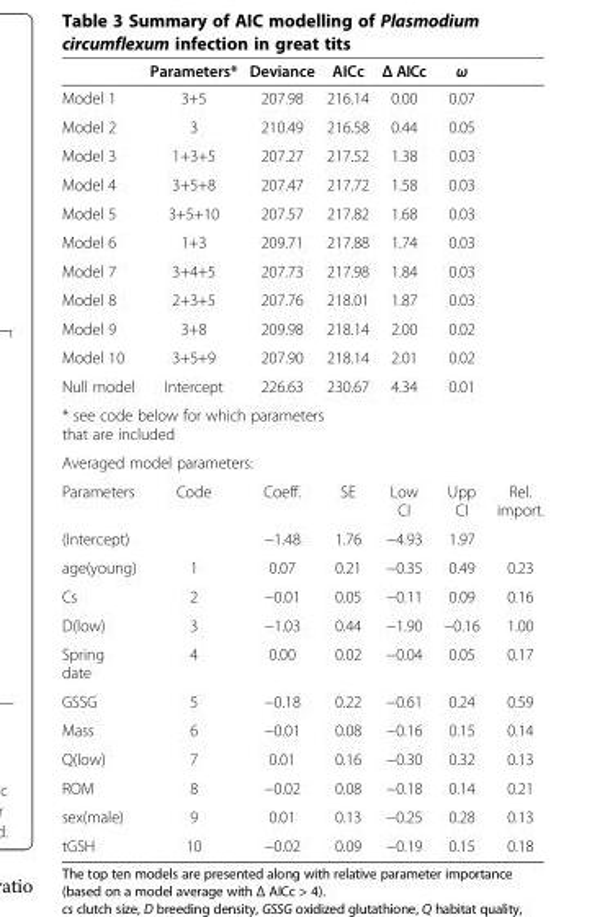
<table><thead><tr><td></td><td>Parameters*</td><td>Deviance</td><td>AICc</td><td>Δ AICc</td><td>ω</td><td></td></tr></thead><tbody><tr><td>Model 1</td><td>3+5</td><td>207.98</td><td>216.14</td><td>0.00</td><td>0.07</td><td></td></tr><tr><td>Model 2</td><td>3</td><td>210.49</td><td>216.58</td><td>0.44</td><td>0.05</td><td></td></tr><tr><td>Model 3</td><td>1+3+5</td><td>207.27</td><td>217.52</td><td>1.38</td><td>0.03</td><td></td></tr><tr><td>Model 4</td><td>3+5+8</td><td>207.47</td><td>217.72</td><td>1.58</td><td>0.03</td><td></td></tr><tr><td>Model 5</td><td>3+5+10</td><td>207.57</td><td>217.82</td><td>1.68</td><td>0.03</td><td></td></tr><tr><td>Model 6</td><td>1+3</td><td>209.71</td><td>217.88</td><td>1.74</td><td>0.03</td><td></td></tr><tr><td>Model 7</td><td>3+4+5</td><td>207.73</td><td>217.98</td><td>1.84</td><td>0.03</td><td></td></tr><tr><td>Model 8</td><td>2+3+5</td><td>207.76</td><td>218.01</td><td>1.87</td><td>0.03</td><td></td></tr><tr><td>Model 9</td><td>3+8</td><td>209.98</td><td>218.14</td><td>2.00</td><td>0.02</td><td></td></tr><tr><td>Model 10</td><td>3+5+9</td><td>207.90</td><td>218.14</td><td>2.01</td><td>0.02</td><td></td></tr><tr><td>Null model</td><td>Intercept</td><td>226.63</td><td>230.67</td><td>4.34</td><td>0.01</td><td></td></tr><tr><td colspan="7">* see code below for which parameters that are included</td></tr><tr><td colspan="7">Averaged model parameters:</td></tr><tr><td>Parameters</td><td>Code</td><td>Coeff.</td><td>SE</td><td>Low CI</td><td>Upp CI</td><td>Rel. import.</td></tr><tr><td>(Intercept)</td><td></td><td>−1.48</td><td>1.76</td><td>−4.93</td><td>1.97</td><td></td></tr><tr><td>age(young)</td><td>1</td><td>0.07</td><td>0.21</td><td>−0.35</td><td>0.49</td><td>0.23</td></tr><tr><td>Cs</td><td>2</td><td>−0.01</td><td>0.05</td><td>−0.11</td><td>0.09</td><td>0.16</td></tr><tr><td>D(low)</td><td>3</td><td>−1.03</td><td>0.44</td><td>−1.90</td><td>−0.16</td><td>1.00</td></tr><tr><td>Spring date</td><td>4</td><td>0.00</td><td>0.02</td><td>−0.04</td><td>0.05</td><td>0.17</td></tr><tr><td>GSSG</td><td>5</td><td>−0.18</td><td>0.22</td><td>−0.61</td><td>0.24</td><td>0.59</td></tr><tr><td>Mass</td><td>6</td><td>−0.01</td><td>0.08</td><td>−0.16</td><td>0.15</td><td>0.14</td></tr><tr><td>Q(low)</td><td>7</td><td>0.01</td><td>0.16</td><td>−0.30</td><td>0.32</td><td>0.13</td></tr><tr><td>ROM</td><td>8</td><td>−0.02</td><td>0.08</td><td>−0.18</td><td>0.14</td><td>0.21</td></tr><tr><td>sex(male)</td><td>9</td><td>0.01</td><td>0.13</td><td>−0.25</td><td>0.28</td><td>0.13</td></tr><tr><td>tGSH</td><td>10</td><td>−0.02</td><td>0.09</td><td>−0.19</td><td>0.15</td><td>0.18</td></tr></tbody></table>